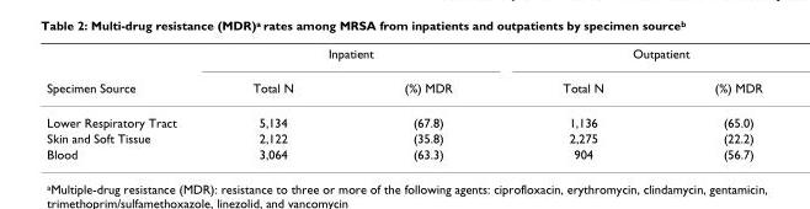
<table><thead><tr><td rowspan="2">Specimen Source</td><td colspan="2">Inpatient</td><td colspan="2">Outpatient</td></tr><tr><td>Total N</td><td>(%) MDR</td><td>Total N</td><td>(%) MDR</td></tr></thead><tbody><tr><td>Lower Respiratory Tract</td><td>5,134</td><td>(67.8)</td><td>1,136</td><td>(65.0)</td></tr><tr><td>Skin and Soft Tissue</td><td>2,122</td><td>(35.8)</td><td>2,275</td><td>(22.2)</td></tr><tr><td>Blood</td><td>3,064</td><td>(63.3)</td><td>904</td><td>(56.7)</td></tr></tbody></table>